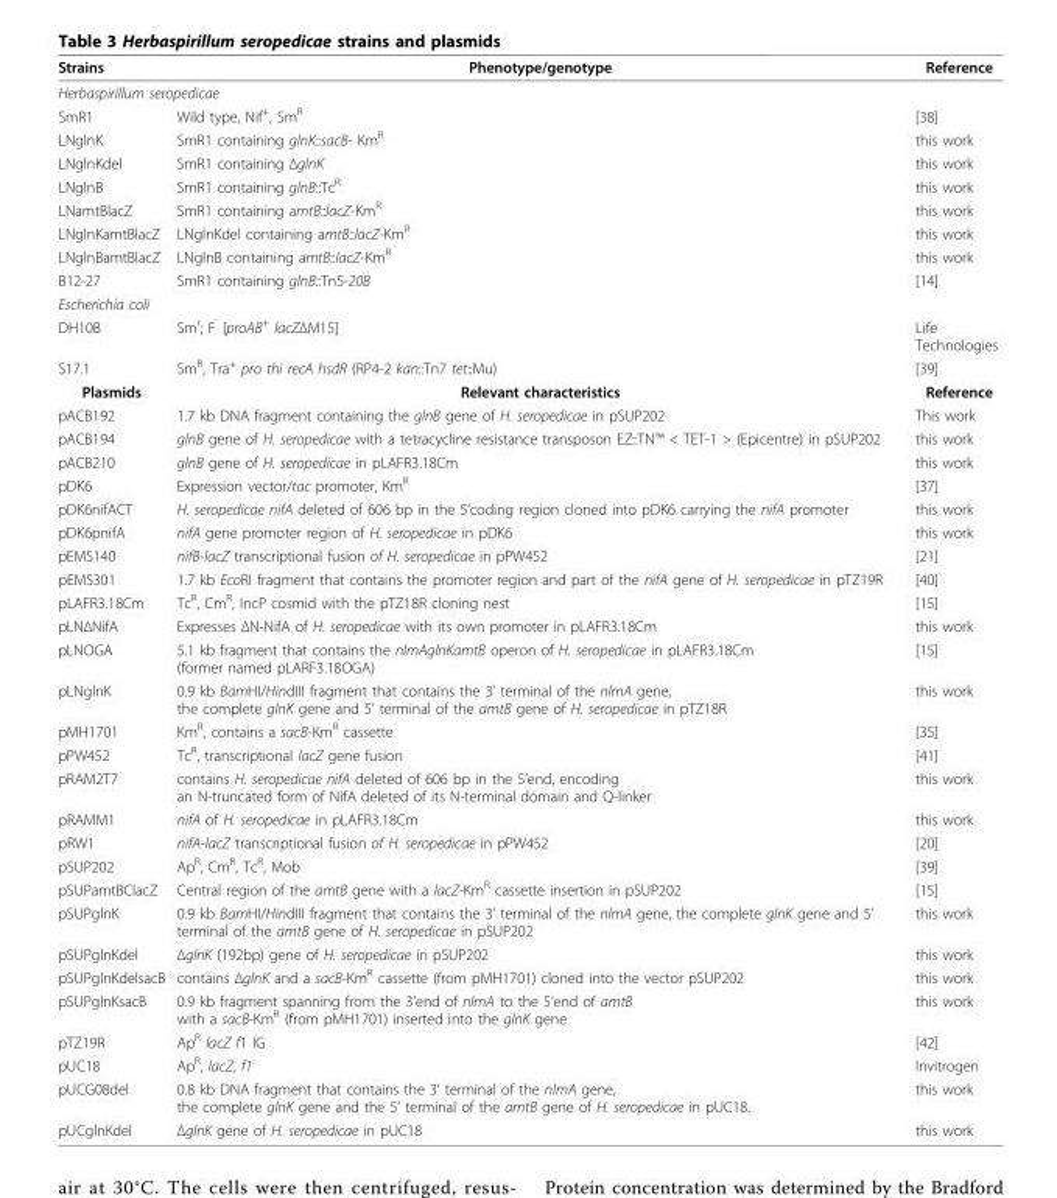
<table><thead><tr><td>Strains</td><td>Phenotype/genotype</td><td>Reference</td></tr></thead><tbody><tr><td colspan="3">Herbaspirillum seropedicae</td></tr><tr><td>SmR1</td><td>Wild type, Nif<sup>+</sup>, Sm<sup>R</sup></td><td>[38]</td></tr><tr><td>LNglnK</td><td>SmR1 containing glnK::sacB- Km<sup>R</sup></td><td>this work</td></tr><tr><td>LNglnKdel</td><td>SmR1 containing ΔglnK</td><td>this work</td></tr><tr><td>LNglnB</td><td>SmR1 containing glnB::Tc<sup>R</sup></td><td>this work</td></tr><tr><td>LNamtBlacZ</td><td>SmR1 containing amtB::lacZ-Km<sup>R</sup></td><td>this work</td></tr><tr><td>LNglnKamtBlacZ</td><td>LNglnKdel containing amtB::lacZ-Km<sup>R</sup></td><td>this work</td></tr><tr><td>LNglnBamtBlacZ</td><td>LNglnB containing amtB::lacZ-Km<sup>R</sup></td><td>this work</td></tr><tr><td>B12-27</td><td>SmR1 containing glnB::Tn5-20B</td><td>[14]</td></tr><tr><td colspan="3">Escherichia coli</td></tr><tr><td>DH10B</td><td>Sm<sup>r</sup>; F<sup>’</sup> [proAB<sup>+</sup> lacZΔM15]</td><td>Life Technologies</td></tr><tr><td>S17.1</td><td>Sm<sup>R</sup>, Tra<sup>+</sup> pro thi recA hsdR (RP4-2 kan::Tn7 tet::Mu)</td><td>[39]</td></tr><tr><td>Plasmids</td><td>Relevant characteristics</td><td>Reference</td></tr><tr><td>pACB192</td><td>1.7 kb DNA fragment containing the glnB gene of H. seropedicae in pSUP202</td><td>This work</td></tr><tr><td>pACB194</td><td>glnB gene of H. seropedicae with a tetracycline resistance transposon EZ::TN™ &lt; TET-1 &gt; (Epicentre) in pSUP202</td><td>this work</td></tr><tr><td>pACB210</td><td>glnB gene of H. seropedicae in pLAFR3.18Cm</td><td>this work</td></tr><tr><td>pDK6</td><td>Expression vector/tac promoter, Km<sup>R</sup></td><td>[37]</td></tr><tr><td>pDK6nifACT</td><td>H. seropedicae nifA deleted of 606 bp in the 5’coding region cloned into pDK6 carrying the nifA promoter</td><td>this work</td></tr><tr><td>pDK6pnifA</td><td>nifA gene promoter region of H. seropedicae in pDK6</td><td>this work</td></tr><tr><td>pEMS140</td><td>nifB-lacZ transcriptional fusion of H. seropedicae in pPW452</td><td>[21]</td></tr><tr><td>pEMS301</td><td>1.7 kb EcoRI fragment that contains the promoter region and part of the nifA gene of H. seropedicae in pTZ19R</td><td>[40]</td></tr><tr><td>pLAFR3.18Cm</td><td>Tc<sup>R</sup>, Cm<sup>R</sup>, IncP cosmid with the pTZ18R cloning nest</td><td>[15]</td></tr><tr><td>pLNΔNifA</td><td>Expresses ΔN-NifA of H. seropedicae with its own promoter in pLAFR3.18Cm</td><td>this work</td></tr><tr><td>pLNOGA</td><td>5.1 kb fragment that contains the nlmAglnKamtB operon of H. seropedicae in pLAFR3.18Cm (former named pLARF3.18OGA)</td><td>[15]</td></tr><tr><td>pLNglnK</td><td>0.9 kb BamHI/HindIII fragment that contains the 3’ terminal of the nlmA gene, the complete glnK gene and 5’ terminal of the amtB gene of H. seropedicae in pTZ18R</td><td>this work</td></tr><tr><td>pMH1701</td><td>Km<sup>R</sup>, contains a sacB-Km<sup>R</sup> cassette</td><td>[35]</td></tr><tr><td>pPW452</td><td>Tc<sup>R</sup>, transcriptional lacZ gene fusion</td><td>[41]</td></tr><tr><td>pRAM2T7</td><td>contains H. seropedicae nifA deleted of 606 bp in the 5’end, encoding an N-truncated form of NifA deleted of its N-terminal domain and Q-linker</td><td>this work</td></tr><tr><td>pRAMM1</td><td>nifA of H. seropedicae in pLAFR3.18Cm</td><td>this work</td></tr><tr><td>pRW1</td><td>nifA-lacZ transcriptional fusion of H. seropedicae in pPW452</td><td>[20]</td></tr><tr><td>pSUP202</td><td>Ap<sup>R</sup>, Cm<sup>R</sup>, Tc<sup>R</sup>, Mob</td><td>[39]</td></tr><tr><td>pSUPamtBClacZ</td><td>Central region of the amtB gene with a lacZ-Km<sup>R</sup> cassette insertion in pSUP202</td><td>[15]</td></tr><tr><td>pSUPglnK</td><td>0.9 kb BamHI/HindIII fragment that contains the 3’ terminal of the nlmA gene, the complete glnK gene and 5’ terminal of the amtB gene of H. seropedicae in pSUP202</td><td>this work</td></tr><tr><td>pSUPglnKdel</td><td>ΔglnK (192bp) gene of H. seropedicae in pSUP202</td><td>this work</td></tr><tr><td>pSUPglnKdelsacB</td><td>contains ΔglnK and a sacB-Km<sup>R</sup> cassette (from pMH1701) cloned into the vector pSUP202</td><td>this work</td></tr><tr><td>pSUPglnKsacB</td><td>0.9 kb fragment spanning from the 3’end of nlmA to the 5’end of amtB with a sacB-Km<sup>R</sup> (from pMH1701) inserted into the glnK gene</td><td>this work</td></tr><tr><td>pTZ19R</td><td>Ap<sup>R</sup> lacZ f1 IG</td><td>[42]</td></tr><tr><td>pUC18</td><td>Ap<sup>R</sup>, lacZ, f1</td><td>Invitrogen</td></tr><tr><td>pUCG08del</td><td>0.8 kb DNA fragment that contains the 3’ terminal of the nlmA gene, the complete glnK gene and the 5’ terminal of the amtB gene of H. seropedicae in pUC18.</td><td>this work</td></tr><tr><td>pUCglnKdel</td><td>ΔglnK gene of H. seropedicae in pUC18</td><td>this work</td></tr></tbody></table>